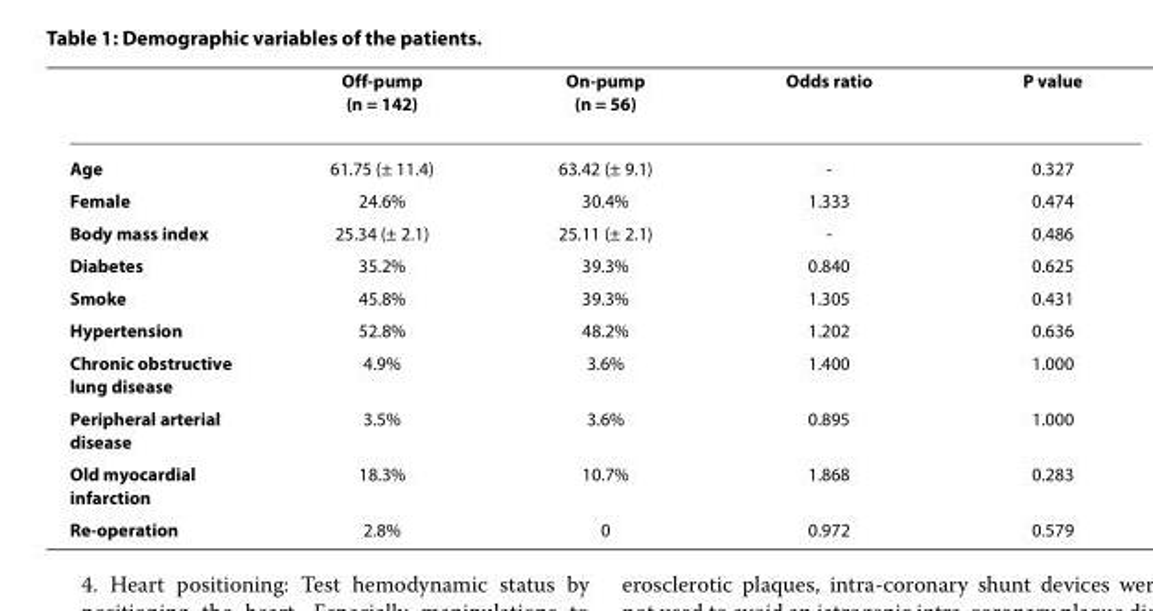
<table><thead><tr><td></td><td>Off-pump (n = 142)</td><td>On-pump (n = 56)</td><td>Odds ratio</td><td>P value</td></tr></thead><tbody><tr><td>Age</td><td>61.75 (± 11.4)</td><td>63.42 (± 9.1)</td><td>-</td><td>0.327</td></tr><tr><td>Female</td><td>24.6%</td><td>30.4%</td><td>1.333</td><td>0.474</td></tr><tr><td>Body mass index</td><td>25.34 (± 2.1)</td><td>25.11 (± 2.1)</td><td>-</td><td>0.486</td></tr><tr><td>Diabetes</td><td>35.2%</td><td>39.3%</td><td>0.840</td><td>0.625</td></tr><tr><td>Smoke</td><td>45.8%</td><td>39.3%</td><td>1.305</td><td>0.431</td></tr><tr><td>Hypertension</td><td>52.8%</td><td>48.2%</td><td>1.202</td><td>0.636</td></tr><tr><td>Chronic obstructive lung disease</td><td>4.9%</td><td>3.6%</td><td>1.400</td><td>1.000</td></tr><tr><td>Peripheral arterial disease</td><td>3.5%</td><td>3.6%</td><td>0.895</td><td>1.000</td></tr><tr><td>Old myocardial infarction</td><td>18.3%</td><td>10.7%</td><td>1.868</td><td>0.283</td></tr><tr><td>Re-operation</td><td>2.8%</td><td>0</td><td>0.972</td><td>0.579</td></tr></tbody></table>